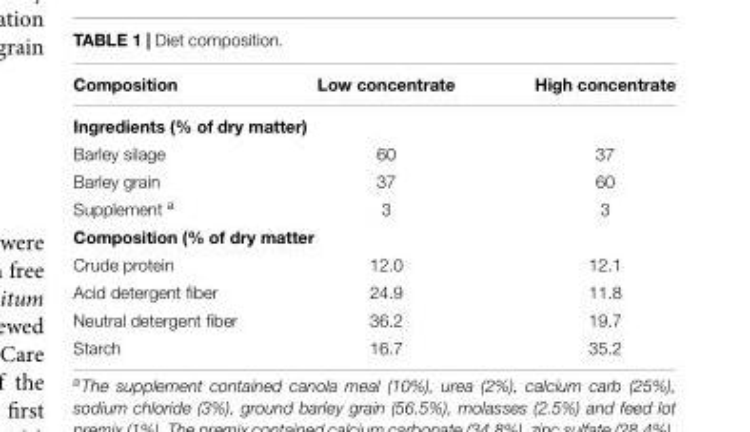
<table><thead><tr><td>Composition</td><td>Low concentrate</td><td>High concentrate</td></tr></thead><tbody><tr><td colspan="3">Ingredients (% of dry matter)</td></tr><tr><td>Barley silage</td><td>60</td><td>37</td></tr><tr><td>Barley grain</td><td>37</td><td>60</td></tr><tr><td>Supplement <sup>a</sup></td><td>3</td><td>3</td></tr><tr><td colspan="3">Composition (% of dry matter</td></tr><tr><td>Crude protein</td><td>12.0</td><td>12.1</td></tr><tr><td>Acid detergent fiber</td><td>24.9</td><td>11.8</td></tr><tr><td>Neutral detergent fiber</td><td>36.2</td><td>19.7</td></tr><tr><td>Starch</td><td>16.7</td><td>35.2</td></tr></tbody></table>